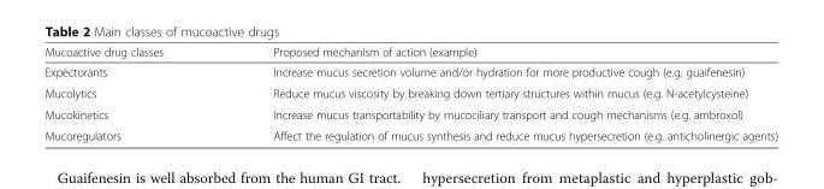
<table><thead><tr><td>Mucoactive drug classes</td><td>Proposed mechanism of action (example)</td></tr></thead><tbody><tr><td>Expectorants</td><td>Increase mucus secretion volume and/or hydration for more productive cough (e.g. guaifenesin)</td></tr><tr><td>Mucolytics</td><td>Reduce mucus viscosity by breaking down tertiary structures within mucus (e.g. N-acetylcysteine)</td></tr><tr><td>Mucokinetics</td><td>Increase mucus transportability by mucociliary transport and cough mechanisms (e.g. ambroxol)</td></tr><tr><td>Mucoregulators</td><td>Affect the regulation of mucus synthesis and reduce mucus hypersecretion (e.g. anticholinergic agents)</td></tr></tbody></table>